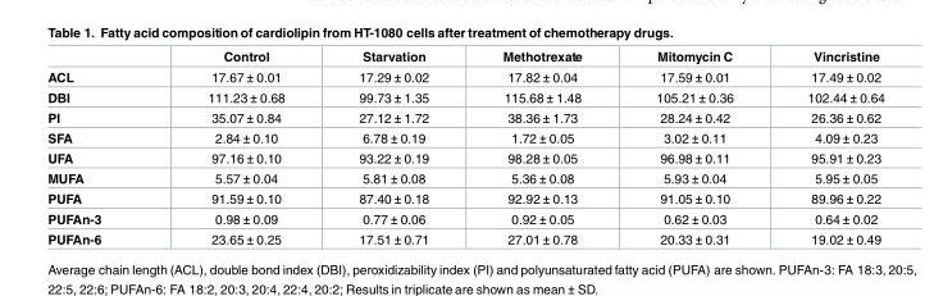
<table><thead><tr><td></td><td>Control</td><td>Starvation</td><td>Methotrexate</td><td>Mitomycin C</td><td>Vincristine</td></tr></thead><tbody><tr><td>ACL</td><td>17.67 ± 0.01</td><td>17.29 ± 0.02</td><td>17.82 ± 0.04</td><td>17.59 ± 0.01</td><td>17.49 ± 0.02</td></tr><tr><td>DBI</td><td>111.23 ± 0.68</td><td>99.73 ± 1.35</td><td>115.68 ± 1.48</td><td>105.21 ± 0.36</td><td>102.44 ± 0.64</td></tr><tr><td>PI</td><td>35.07 ± 0.84</td><td>27.12 ± 1.72</td><td>38.36 ± 1.73</td><td>28.24 ± 0.42</td><td>26.36 ± 0.62</td></tr><tr><td>SFA</td><td>2.84 ± 0.10</td><td>6.78 ± 0.19</td><td>1.72 ± 0.05</td><td>3.02 ± 0.11</td><td>4.09 ± 0.23</td></tr><tr><td>UFA</td><td>97.16 ± 0.10</td><td>93.22 ± 0.19</td><td>98.28 ± 0.05</td><td>96.98 ± 0.11</td><td>95.91 ± 0.23</td></tr><tr><td>MUFA</td><td>5.57 ± 0.04</td><td>5.81 ± 0.08</td><td>5.36 ± 0.08</td><td>5.93 ± 0.04</td><td>5.95 ± 0.05</td></tr><tr><td>PUFA</td><td>91.59 ± 0.10</td><td>87.40 ± 0.18</td><td>92.92 ± 0.13</td><td>91.05 ± 0.10</td><td>89.96 ± 0.22</td></tr><tr><td>PUFAn-3</td><td>0.98 ± 0.09</td><td>0.77 ± 0.06</td><td>0.92 ± 0.05</td><td>0.62 ± 0.03</td><td>0.64 ± 0.02</td></tr><tr><td>PUFAn-6</td><td>23.65 ± 0.25</td><td>17.51 ± 0.71</td><td>27.01 ± 0.78</td><td>20.33 ± 0.31</td><td>19.02 ± 0.49</td></tr></tbody></table>